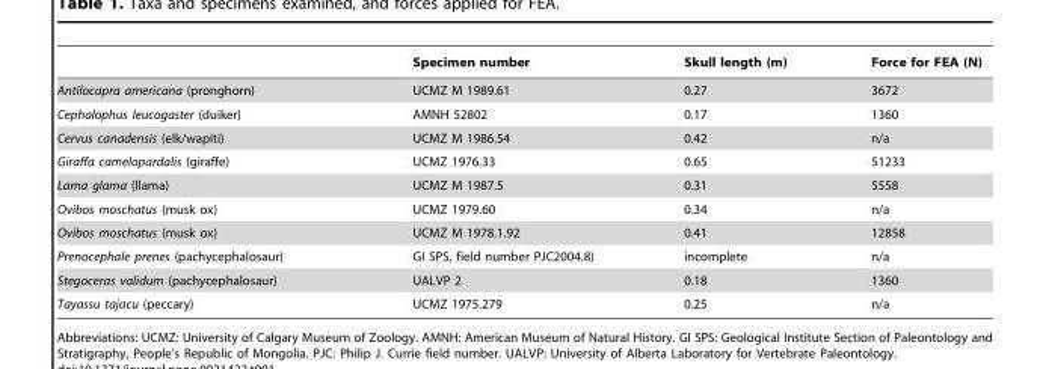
<table><thead><tr><td></td><td>Specimen number</td><td>Skull length (m)</td><td>Force for FEA (N)</td></tr></thead><tbody><tr><td>Antilocapra americana (pronghorn)</td><td>UCMZ M 1989.61</td><td>0.27</td><td>3672</td></tr><tr><td>Cephalophus leucogaster (duiker)</td><td>AMNH 52802</td><td>0.17</td><td>1360</td></tr><tr><td>Cervus canadensis (elk/wapiti)</td><td>UCMZ M 1986.54</td><td>0.42</td><td>n/a</td></tr><tr><td>Giraffa camelopardalis (giraffe)</td><td>UCMZ 1976.33</td><td>0.65</td><td>51233</td></tr><tr><td>Lama glama (llama)</td><td>UCMZ M 1987.5</td><td>0.31</td><td>5558</td></tr><tr><td>Ovibos moschatus (musk ox)</td><td>UCMZ 1979.60</td><td>0.34</td><td>n/a</td></tr><tr><td>Ovibos moschatus (musk ox)</td><td>UCMZ M 1978.1.92</td><td>0.41</td><td>12858</td></tr><tr><td>Prenocephale prenes (pachycephalosaur)</td><td>GI SPS, field number PJC2004.8)</td><td>incomplete</td><td>n/a</td></tr><tr><td>Stegoceras validum (pachycephalosaur)</td><td>UALVP 2</td><td>0.18</td><td>1360</td></tr><tr><td>Tayassu tajacu (peccary)</td><td>UCMZ 1975.279</td><td>0.25</td><td>n/a</td></tr></tbody></table>